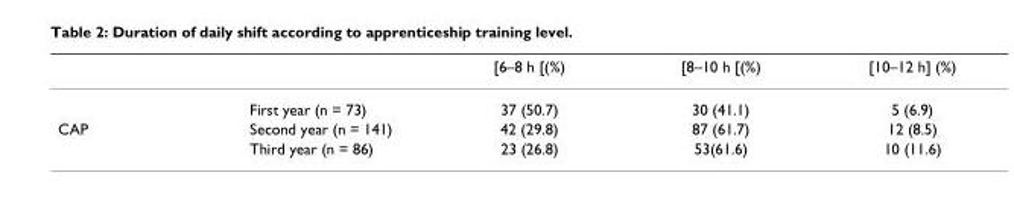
<table><thead><tr><td></td><td></td><td>[6–8 h [(%)</td><td>[8–10 h [(%)</td><td>[10–12 h] (%)</td></tr></thead><tbody><tr><td></td><td>First year (n = 73)</td><td>37 (50.7)</td><td>30 (41.1)</td><td>5 (6.9)</td></tr><tr><td rowspan="2">CAP</td><td>Second year (n = 141)</td><td>42 (29.8)</td><td>87 (61.7)</td><td>12 (8.5)</td></tr><tr><td>Third year (n = 86)</td><td>23 (26.8)</td><td>53(61.6)</td><td>10 (11.6)</td></tr></tbody></table>